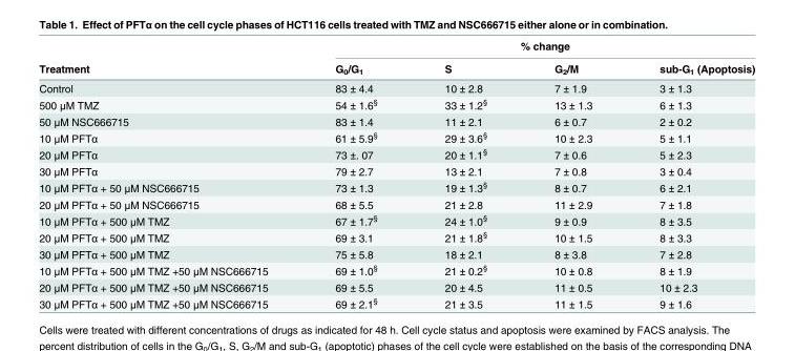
<table><thead><tr><td rowspan="2">Treatment</td><td colspan="4">% change</td></tr><tr><td>G<sub>0</sub>/G<sub>1</sub></td><td>S</td><td>G<sub>2</sub>/M</td><td>sub-G<sub>1</sub> (Apoptosis)</td></tr></thead><tbody><tr><td>Control</td><td>83 ± 4.4</td><td>10 ± 2.8</td><td>7 ± 1.9</td><td>3 ± 1.3</td></tr><tr><td>500 μM TMZ</td><td>54 ± 1.6<sup>§</sup></td><td>33 ± 1.2<sup>§</sup></td><td>13 ± 1.3</td><td>6 ± 1.3</td></tr><tr><td>50 μM NSC666715</td><td>83 ± 1.4</td><td>11 ± 2.1</td><td>6 ± 0.7</td><td>2 ± 0.2</td></tr><tr><td>10 μM PFTα</td><td>61 ± 5.9<sup>§</sup></td><td>29 ± 3.6<sup>§</sup></td><td>10 ± 2.3</td><td>5 ± 1.1</td></tr><tr><td>20 μM PFTα</td><td>73 ±. 07</td><td>20 ± 1.1<sup>§</sup></td><td>7 ± 0.6</td><td>5 ± 2.3</td></tr><tr><td>30 μM PFTα</td><td>79 ± 2.7</td><td>13 ± 2.1</td><td>7 ± 0.8</td><td>3 ± 0.4</td></tr><tr><td>10 μM PFTα + 50 μM NSC666715</td><td>73 ± 1.3</td><td>19 ± 1.3<sup>§</sup></td><td>8 ± 0.7</td><td>6 ± 2.1</td></tr><tr><td>20 μM PFTα + 50 μM NSC666715</td><td>68 ± 5.5</td><td>21 ± 2.8</td><td>11 ± 2.9</td><td>7 ± 1.8</td></tr><tr><td>10 μM PFTα + 500 μM TMZ</td><td>67 ± 1.7<sup>§</sup></td><td>24 ± 1.0<sup>§</sup></td><td>9 ± 0.9</td><td>8 ± 3.5</td></tr><tr><td>20 μM PFTα + 500 μM TMZ</td><td>69 ± 3.1</td><td>21 ± 1.8<sup>§</sup></td><td>10 ± 1.5</td><td>8 ± 3.3</td></tr><tr><td>30 μM PFTα + 500 μM TMZ</td><td>75 ± 5.8</td><td>18 ± 2.1</td><td>8 ± 3.8</td><td>7 ± 2.8</td></tr><tr><td>10 μM PFTα + 500 μM TMZ +50 μM NSC666715</td><td>69 ± 1.0<sup>§</sup></td><td>21 ± 0.2<sup>§</sup></td><td>10 ± 0.8</td><td>8 ± 1.9</td></tr><tr><td>20 μM PFTα + 500 μM TMZ +50 μM NSC666715</td><td>69 ± 5.5</td><td>20 ± 4.5</td><td>11 ± 0.5</td><td>10 ± 2.3</td></tr><tr><td>30 μM PFTα + 500 μM TMZ +50 μM NSC666715</td><td>69 ± 2.1<sup>§</sup></td><td>21 ± 3.5</td><td>11 ± 1.5</td><td>9 ± 1.6</td></tr></tbody></table>